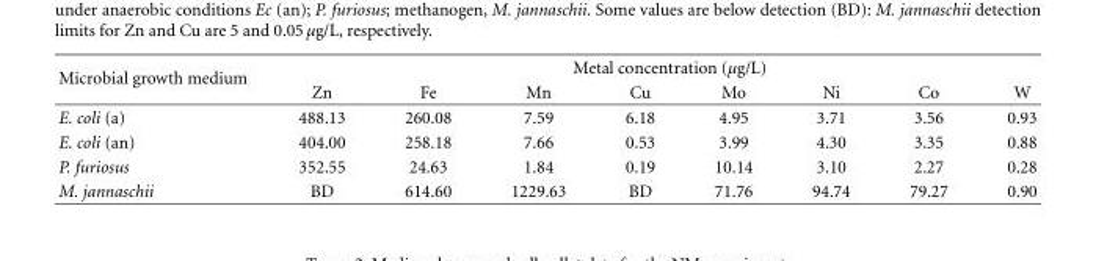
<table><thead><tr><td rowspan="2">Microbial growth medium</td><td colspan="8">Metal concentration (μg/L)</td></tr><tr><td>Zn</td><td>Fe</td><td>Mn</td><td>Cu</td><td>Mo</td><td>Ni</td><td>Co</td><td>W</td></tr></thead><tbody><tr><td>E. coli (a)</td><td>488.13</td><td>260.08</td><td>7.59</td><td>6.18</td><td>4.95</td><td>3.71</td><td>3.56</td><td>0.93</td></tr><tr><td>E. coli (an)</td><td>404.00</td><td>258.18</td><td>7.66</td><td>0.53</td><td>3.99</td><td>4.30</td><td>3.35</td><td>0.88</td></tr><tr><td>P. furiosus</td><td>352.55</td><td>24.63</td><td>1.84</td><td>0.19</td><td>10.14</td><td>3.10</td><td>2.27</td><td>0.28</td></tr><tr><td>M. jannaschii</td><td>BD</td><td>614.60</td><td>1229.63</td><td>BD</td><td>71.76</td><td>94.74</td><td>79.27</td><td>0.90</td></tr></tbody></table>